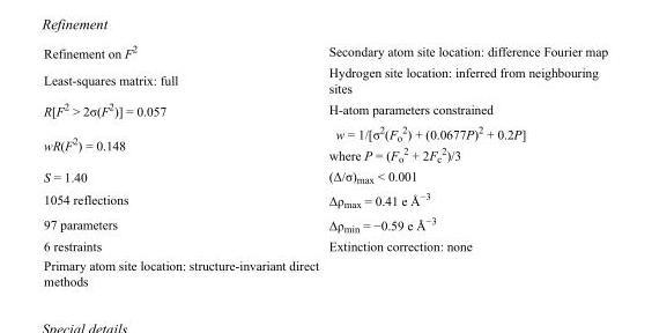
<table><tbody><tr><td>Refinement on F<sup>2</sup></td><td>Secondary atom site location: difference Fourier map</td></tr><tr><td>Least-squares matrix: full</td><td>Hydrogen site location: inferred from neighbouring sites</td></tr><tr><td>R[F<sup>2</sup> &gt; 2σ(F<sup>2</sup>)] = 0.057</td><td>H-atom parameters constrained</td></tr><tr><td>wR(F<sup>2</sup>) = 0.148</td><td>w = 1/[σ<sup>2</sup>(F<sub>o</sub> <sup>2</sup>) + (0.0677P)<sup>2</sup> + 0.2P] where P = (F<sub>o</sub> <sup>2</sup> + 2F<sub>c</sub> <sup>2</sup>)/3</td></tr><tr><td>S = 1.40</td><td>(Δ/σ)<sub>max</sub> &lt; 0.001</td></tr><tr><td>1054 reflections</td><td>Δρ<sub>max</sub> = 0.41 e Å<sup>−3</sup></td></tr><tr><td>97 parameters</td><td>Δρ<sub>min</sub> = −0.59 e Å<sup>−3</sup></td></tr><tr><td>6 restraints</td><td>Extinction correction: none</td></tr><tr><td>Primary atom site location: structure-invariant direct methods</td><td></td></tr></tbody></table>